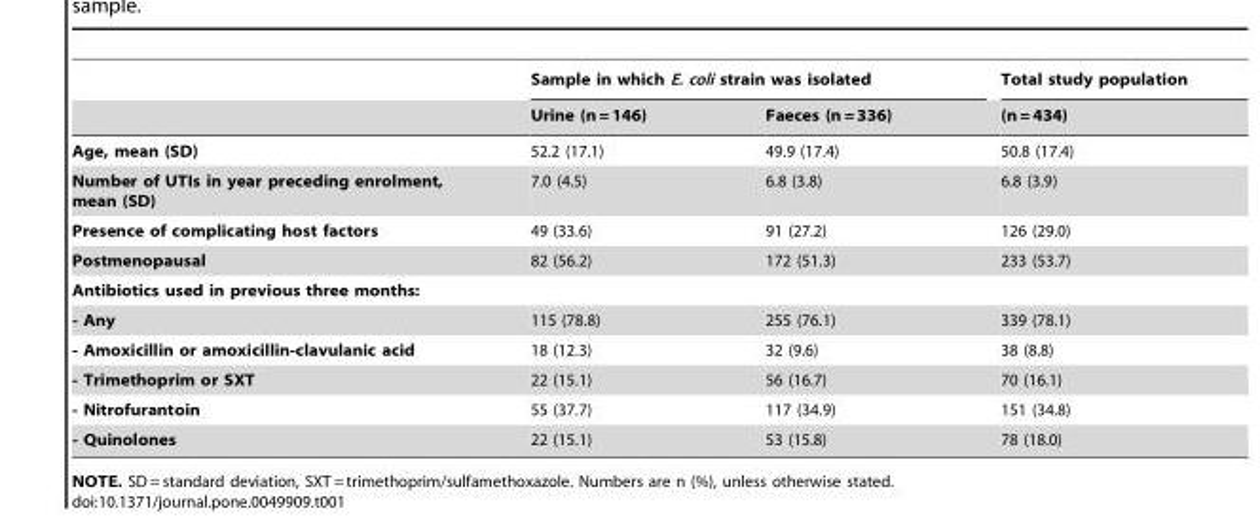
<table><thead><tr><td rowspan="2"></td><td colspan="2">Sample in which E. coli strain was isolated</td><td rowspan="2">Total study population (n = 434)</td></tr><tr><td>Urine (n = 146)</td><td>Faeces (n = 336)</td></tr></thead><tbody><tr><td>Age, mean (SD)</td><td>52.2 (17.1)</td><td>49.9 (17.4)</td><td>50.8 (17.4)</td></tr><tr><td>Number of UTIs in year preceding enrolment, mean (SD)</td><td>7.0 (4.5)</td><td>6.8 (3.8)</td><td>6.8 (3.9)</td></tr><tr><td>Presence of complicating host factors</td><td>49 (33.6)</td><td>91 (27.2)</td><td>126 (29.0)</td></tr><tr><td>Postmenopausal</td><td>82 (56.2)</td><td>172 (51.3)</td><td>233 (53.7)</td></tr><tr><td colspan="4">Antibiotics used in previous three months:</td></tr><tr><td>- Any</td><td>115 (78.8)</td><td>255 (76.1)</td><td>339 (78.1)</td></tr><tr><td>- Amoxicillin or amoxicillin-clavulanic acid</td><td>18 (12.3)</td><td>32 (9.6)</td><td>38 (8.8)</td></tr><tr><td>- Trimethoprim or SXT</td><td>22 (15.1)</td><td>56 (16.7)</td><td>70 (16.1)</td></tr><tr><td>- Nitrofurantoin</td><td>55 (37.7)</td><td>117 (34.9)</td><td>151 (34.8)</td></tr><tr><td>- Quinolones</td><td>22 (15.1)</td><td>53 (15.8)</td><td>78 (18.0)</td></tr></tbody></table>